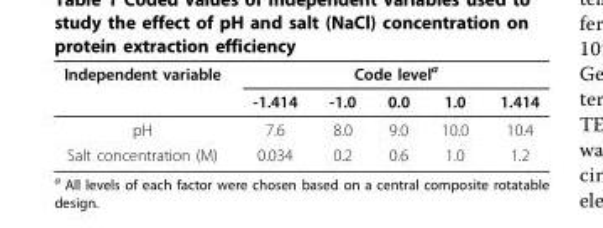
<table><thead><tr><td rowspan="2">Independent variable</td><td colspan="5">Code level<sup>a</sup></td></tr><tr><td>-1.414</td><td>-1.0</td><td>0.0</td><td>1.0</td><td>1.414</td></tr></thead><tbody><tr><td>pH</td><td>7.6</td><td>8.0</td><td>9.0</td><td>10.0</td><td>10.4</td></tr><tr><td>Salt concentration (M)</td><td>0.034</td><td>0.2</td><td>0.6</td><td>1.0</td><td>1.2</td></tr></tbody></table>